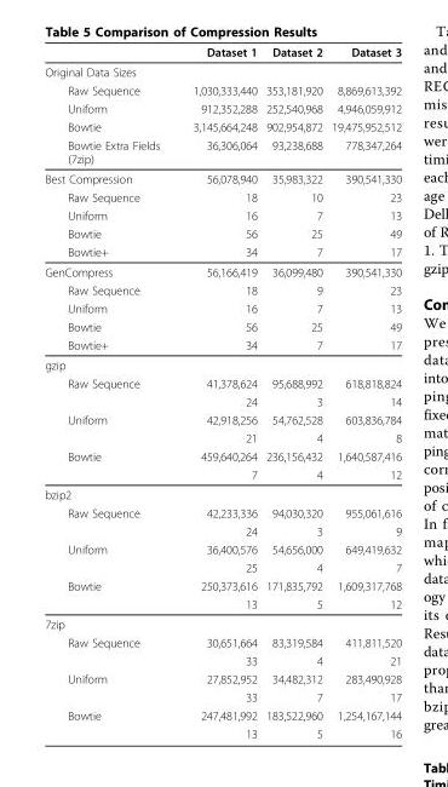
<table><thead><tr><td></td><td>Dataset 1</td><td>Dataset 2</td><td>Dataset 3</td></tr></thead><tbody><tr><td colspan="4">Original Data Sizes</td></tr><tr><td>Raw Sequence</td><td>1,030,333,440</td><td>353,181,920</td><td>8,869,613,392</td></tr><tr><td>Uniform</td><td>912,352,288</td><td>252,540,968</td><td>4,946,059,912</td></tr><tr><td>Bowtie</td><td>3,145,664,248</td><td>902,954,872</td><td>19,475,952,512</td></tr><tr><td>Bowtie Extra Fields (7zip)</td><td>36,306,064</td><td>93,238,688</td><td>778,347,264</td></tr><tr><td>Best Compression</td><td>56,078,940</td><td>35,983,322</td><td>390,541,330</td></tr><tr><td>Raw Sequence</td><td>18</td><td>10</td><td>23</td></tr><tr><td>Uniform</td><td>16</td><td>7</td><td>13</td></tr><tr><td>Bowtie</td><td>56</td><td>25</td><td>49</td></tr><tr><td>Bowtie+</td><td>34</td><td>7</td><td>17</td></tr><tr><td>GenCompress</td><td>56,166,419</td><td>36,099,480</td><td>390,541,330</td></tr><tr><td>Raw Sequence</td><td>18</td><td>9</td><td>23</td></tr><tr><td>Uniform</td><td>16</td><td>7</td><td>13</td></tr><tr><td>Bowtie</td><td>56</td><td>25</td><td>49</td></tr><tr><td>Bowtie+</td><td>34</td><td>7</td><td>17</td></tr><tr><td colspan="4">gzip</td></tr><tr><td rowspan="2">Raw Sequence</td><td>41,378,624</td><td>95,688,992</td><td>618,818,824</td></tr><tr><td>24</td><td>3</td><td>14</td></tr><tr><td rowspan="2">Uniform</td><td>42,918,256</td><td>54,762,528</td><td>603,836,784</td></tr><tr><td>21</td><td>4</td><td>8</td></tr><tr><td rowspan="2">Bowtie</td><td>459,640,264</td><td>236,156,432</td><td>1,640,587,416</td></tr><tr><td>7</td><td>4</td><td>12</td></tr><tr><td colspan="4">bzip2</td></tr><tr><td rowspan="2">Raw Sequence</td><td>42,233,336</td><td>94,030,320</td><td>955,061,616</td></tr><tr><td>24</td><td>3</td><td>9</td></tr><tr><td rowspan="2">Uniform</td><td>36,400,576</td><td>54,656,000</td><td>649,419,632</td></tr><tr><td>25</td><td>4</td><td>7</td></tr><tr><td rowspan="2">Bowtie</td><td>250,373,616</td><td>171,835,792</td><td>1,609,317,768</td></tr><tr><td>13</td><td>5</td><td>12</td></tr><tr><td colspan="4">7zip</td></tr><tr><td rowspan="2">Raw Sequence</td><td>30,651,664</td><td>83,319,584</td><td>411,811,520</td></tr><tr><td>33</td><td>4</td><td>21</td></tr><tr><td rowspan="2">Uniform</td><td>27,852,952</td><td>34,482,312</td><td>283,490,928</td></tr><tr><td>33</td><td>7</td><td>17</td></tr><tr><td rowspan="2">Bowtie</td><td>247,481,992</td><td>183,522,960</td><td>1,254,167,144</td></tr><tr><td>13</td><td>5</td><td>16</td></tr></tbody></table>